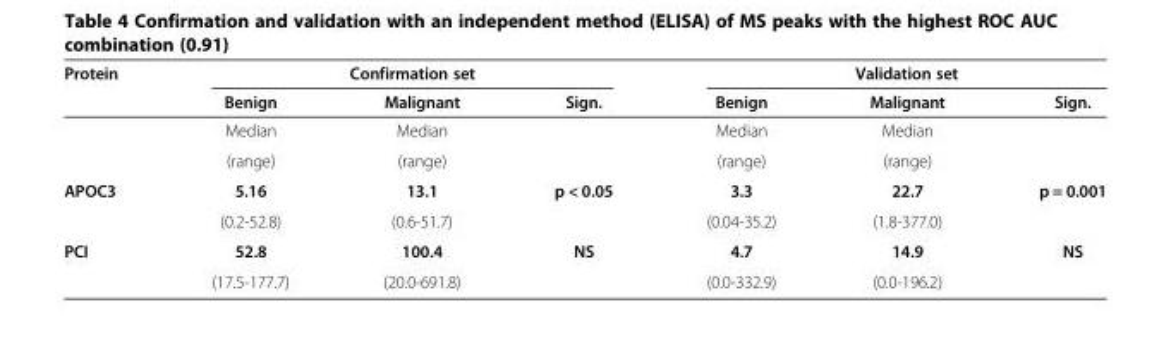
<table><thead><tr><td rowspan="2">Protein</td><td colspan="3">Confirmation set</td><td colspan="3">Validation set</td></tr><tr><td>Benign</td><td>Malignant</td><td>Sign.</td><td>Benign</td><td>Malignant</td><td>Sign.</td></tr></thead><tbody><tr><td rowspan="2"></td><td>Median</td><td>Median</td><td></td><td>Median</td><td>Median</td><td></td></tr><tr><td>(range)</td><td>(range)</td><td></td><td>(range)</td><td>(range)</td><td></td></tr><tr><td rowspan="2">APOC3</td><td>5.16</td><td>13.1</td><td>p &lt; 0.05</td><td>3.3</td><td>22.7</td><td>p = 0.001</td></tr><tr><td>(0.2-52.8)</td><td>(0.6-51.7)</td><td></td><td>(0.04-35.2)</td><td>(1.8-377.0)</td><td></td></tr><tr><td rowspan="2">PCI</td><td>52.8</td><td>100.4</td><td>NS</td><td>4.7</td><td>14.9</td><td>NS</td></tr><tr><td>(17.5-177.7)</td><td>(20.0-691.8)</td><td></td><td>(0.0-332.9)</td><td>(0.0-196.2)</td><td></td></tr></tbody></table>